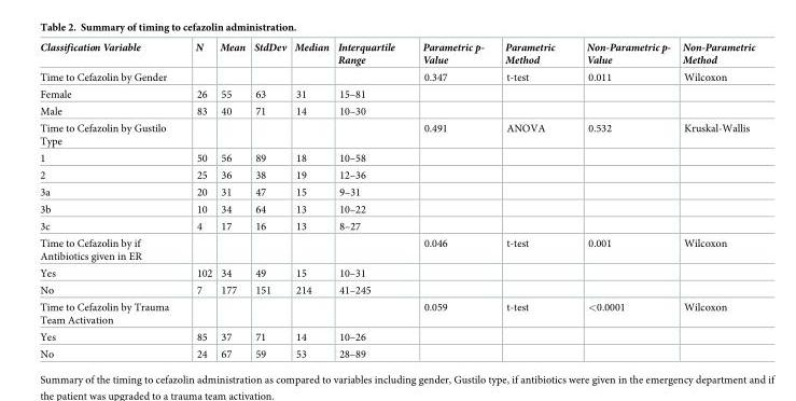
<table><thead><tr><td>Classification Variable</td><td>N</td><td>Mean</td><td>StdDev</td><td>Median</td><td>Interquartile Range</td><td>Parametric p- Value</td><td>Parametric Method</td><td>Non-Parametric p- Value</td><td>Non-Parametric Method</td></tr></thead><tbody><tr><td>Time to Cefazolin by Gender</td><td></td><td></td><td></td><td></td><td></td><td>0.347</td><td>t-test</td><td>0.011</td><td>Wilcoxon</td></tr><tr><td>Female</td><td>26</td><td>55</td><td>63</td><td>31</td><td>15–81</td><td></td><td></td><td></td><td></td></tr><tr><td>Male</td><td>83</td><td>40</td><td>71</td><td>14</td><td>10–30</td><td></td><td></td><td></td><td></td></tr><tr><td>Time to Cefazolin by Gustilo Type</td><td></td><td></td><td></td><td></td><td></td><td>0.491</td><td>ANOVA</td><td>0.532</td><td>Kruskal-Wallis</td></tr><tr><td>1</td><td>50</td><td>56</td><td>89</td><td>18</td><td>10–58</td><td></td><td></td><td></td><td></td></tr><tr><td>2</td><td>25</td><td>36</td><td>38</td><td>19</td><td>12–36</td><td></td><td></td><td></td><td></td></tr><tr><td>3a</td><td>20</td><td>31</td><td>47</td><td>15</td><td>9–31</td><td></td><td></td><td></td><td></td></tr><tr><td>3b</td><td>10</td><td>34</td><td>64</td><td>13</td><td>10–22</td><td></td><td></td><td></td><td></td></tr><tr><td>3c</td><td>4</td><td>17</td><td>16</td><td>13</td><td>8–27</td><td></td><td></td><td></td><td></td></tr><tr><td>Time to Cefazolin by if Antibiotics given in ER</td><td></td><td></td><td></td><td></td><td></td><td>0.046</td><td>t-test</td><td>0.001</td><td>Wilcoxon</td></tr><tr><td>Yes</td><td>102</td><td>34</td><td>49</td><td>15</td><td>10–31</td><td></td><td></td><td></td><td></td></tr><tr><td>No</td><td>7</td><td>177</td><td>151</td><td>214</td><td>41–245</td><td></td><td></td><td></td><td></td></tr><tr><td>Time to Cefazolin by Trauma Team Activation</td><td></td><td></td><td></td><td></td><td></td><td>0.059</td><td>t-test</td><td>&lt;0.0001</td><td>Wilcoxon</td></tr><tr><td>Yes</td><td>85</td><td>37</td><td>71</td><td>14</td><td>10–26</td><td></td><td></td><td></td><td></td></tr><tr><td>No</td><td>24</td><td>67</td><td>59</td><td>53</td><td>28–89</td><td></td><td></td><td></td><td></td></tr></tbody></table>